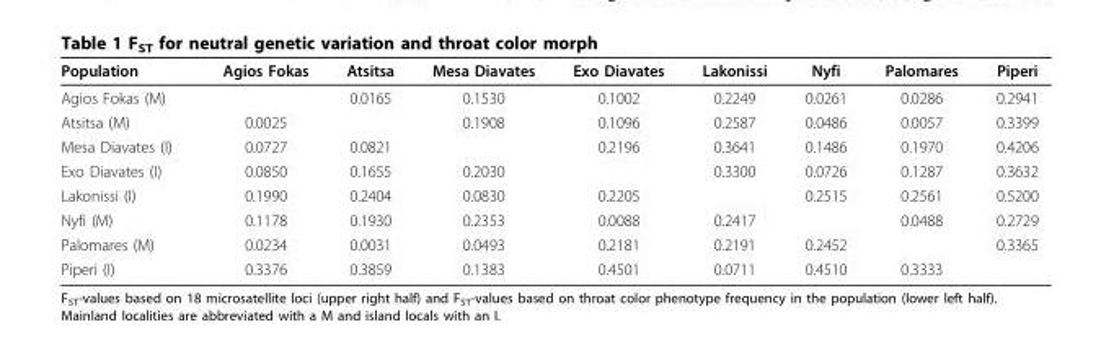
<table><thead><tr><td>Population</td><td>Agios Fokas</td><td>Atsitsa</td><td>Mesa Diavates</td><td>Exo Diavates</td><td>Lakonissi</td><td>Nyfi</td><td>Palomares</td><td>Piperi</td></tr></thead><tbody><tr><td>Agios Fokas (M)</td><td></td><td>0.0165</td><td>0.1530</td><td>0.1002</td><td>0.2249</td><td>0.0261</td><td>0.0286</td><td>0.2941</td></tr><tr><td>Atsitsa (M)</td><td>0.0025</td><td></td><td>0.1908</td><td>0.1096</td><td>0.2587</td><td>0.0486</td><td>0.0057</td><td>0.3399</td></tr><tr><td>Mesa Diavates (I)</td><td>0.0727</td><td>0.0821</td><td></td><td>0.2196</td><td>0.3641</td><td>0.1486</td><td>0.1970</td><td>0.4206</td></tr><tr><td>Exo Diavates (I)</td><td>0.0850</td><td>0.1655</td><td>0.2030</td><td></td><td>0.3300</td><td>0.0726</td><td>0.1287</td><td>0.3632</td></tr><tr><td>Lakonissi (I)</td><td>0.1990</td><td>0.2404</td><td>0.0830</td><td>0.2205</td><td></td><td>0.2515</td><td>0.2561</td><td>0.5200</td></tr><tr><td>Nyfi (M)</td><td>0.1178</td><td>0.1930</td><td>0.2353</td><td>0.0088</td><td>0.2417</td><td></td><td>0.0488</td><td>0.2729</td></tr><tr><td>Palomares (M)</td><td>0.0234</td><td>0.0031</td><td>0.0493</td><td>0.2181</td><td>0.2191</td><td>0.2452</td><td></td><td>0.3365</td></tr><tr><td>Piperi (I)</td><td>0.3376</td><td>0.3859</td><td>0.1383</td><td>0.4501</td><td>0.0711</td><td>0.4510</td><td>0.3333</td><td></td></tr></tbody></table>